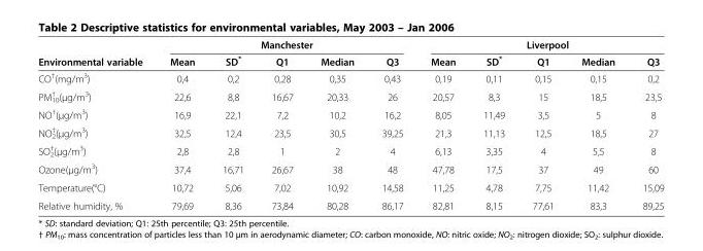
<table><thead><tr><td rowspan="2">Environmental variable</td><td colspan="5">Manchester</td><td colspan="5">Liverpool</td></tr><tr><td>Mean</td><td>SD*</td><td>Q1</td><td>Median</td><td>Q3</td><td>Mean</td><td>SD*</td><td>Q1</td><td>Median</td><td>Q3</td></tr></thead><tbody><tr><td>CO<sup>†</sup>(mg/m<sup>3</sup>)</td><td>0,4</td><td>0,2</td><td>0,28</td><td>0,35</td><td>0,43</td><td>0,19</td><td>0,11</td><td>0,15</td><td>0,15</td><td>0,2</td></tr><tr><td>PM<sub>10</sub> <sup>†</sup> (μg/m<sup>3</sup>)</td><td>22,6</td><td>8,8</td><td>16,67</td><td>20,33</td><td>26</td><td>20,57</td><td>8,3</td><td>15</td><td>18,5</td><td>23,5</td></tr><tr><td>NO<sup>†</sup>(μg/m<sup>3</sup>)</td><td>16,9</td><td>22,1</td><td>7,2</td><td>10,2</td><td>16,2</td><td>8,05</td><td>11,49</td><td>3,5</td><td>5</td><td>8</td></tr><tr><td>NO<sub>2</sub> <sup>†</sup>(μg/m<sup>3</sup>)</td><td>32,5</td><td>12,4</td><td>23,5</td><td>30,5</td><td>39,25</td><td>21,3</td><td>11,13</td><td>12,5</td><td>18,5</td><td>27</td></tr><tr><td>SO<sub>2</sub> <sup>†</sup>(μg/m<sup>3</sup>)</td><td>2,8</td><td>2,8</td><td>1</td><td>2</td><td>4</td><td>6,13</td><td>3,35</td><td>4</td><td>5,5</td><td>8</td></tr><tr><td>Ozone(μg/m<sup>3</sup>)</td><td>37,4</td><td>16,71</td><td>26,67</td><td>38</td><td>48</td><td>47,78</td><td>17,5</td><td>37</td><td>49</td><td>60</td></tr><tr><td>Temperature(°C)</td><td>10,72</td><td>5,06</td><td>7,02</td><td>10,92</td><td>14,58</td><td>11,25</td><td>4,78</td><td>7,75</td><td>11,42</td><td>15,09</td></tr><tr><td>Relative humidity, %</td><td>79,69</td><td>8,36</td><td>73,84</td><td>80,28</td><td>86,17</td><td>82,81</td><td>8,15</td><td>77,61</td><td>83,3</td><td>89,25</td></tr></tbody></table>